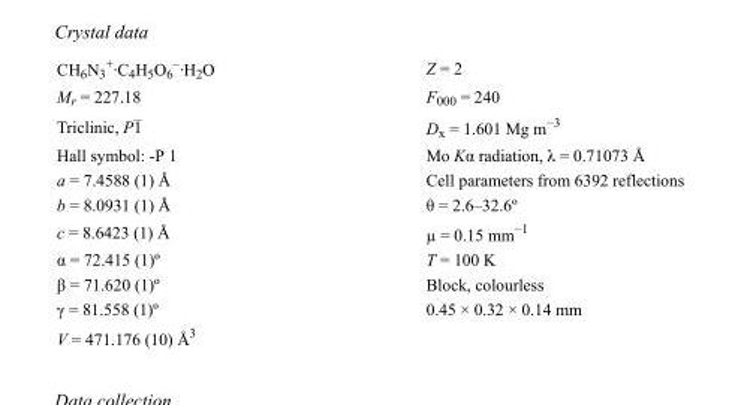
<table><tbody><tr><td>CH<sub>6</sub>N<sub>3</sub> <sup>+</sup>·C<sub>4</sub>H<sub>5</sub>O<sub>6</sub> <sup>–</sup>·H<sub>2</sub>O</td><td>Z = 2</td></tr><tr><td>M<sub>r</sub> = 227.18</td><td>F000 = 240</td></tr><tr><td>Triclinic, P1</td><td>D<sub>x</sub> = 1.601 Mg m<sup>−3</sup></td></tr><tr><td>Hall symbol: -P 1</td><td>Mo Kα radiation, λ = 0.71073 Å</td></tr><tr><td>a = 7.4588 (1) Å</td><td>Cell parameters from 6392 reflections</td></tr><tr><td>b = 8.0931 (1) Å</td><td>θ = 2.6–32.6º</td></tr><tr><td>c = 8.6423 (1) Å</td><td>µ = 0.15 mm<sup>−1</sup></td></tr><tr><td>α = 72.415 (1)º</td><td>T = 100 K</td></tr><tr><td>β = 71.620 (1)º</td><td>Block, colourless</td></tr><tr><td>γ = 81.558 (1)º</td><td>0.45 × 0.32 × 0.14 mm</td></tr><tr><td>V = 471.176 (10) Å3</td><td></td></tr></tbody></table>